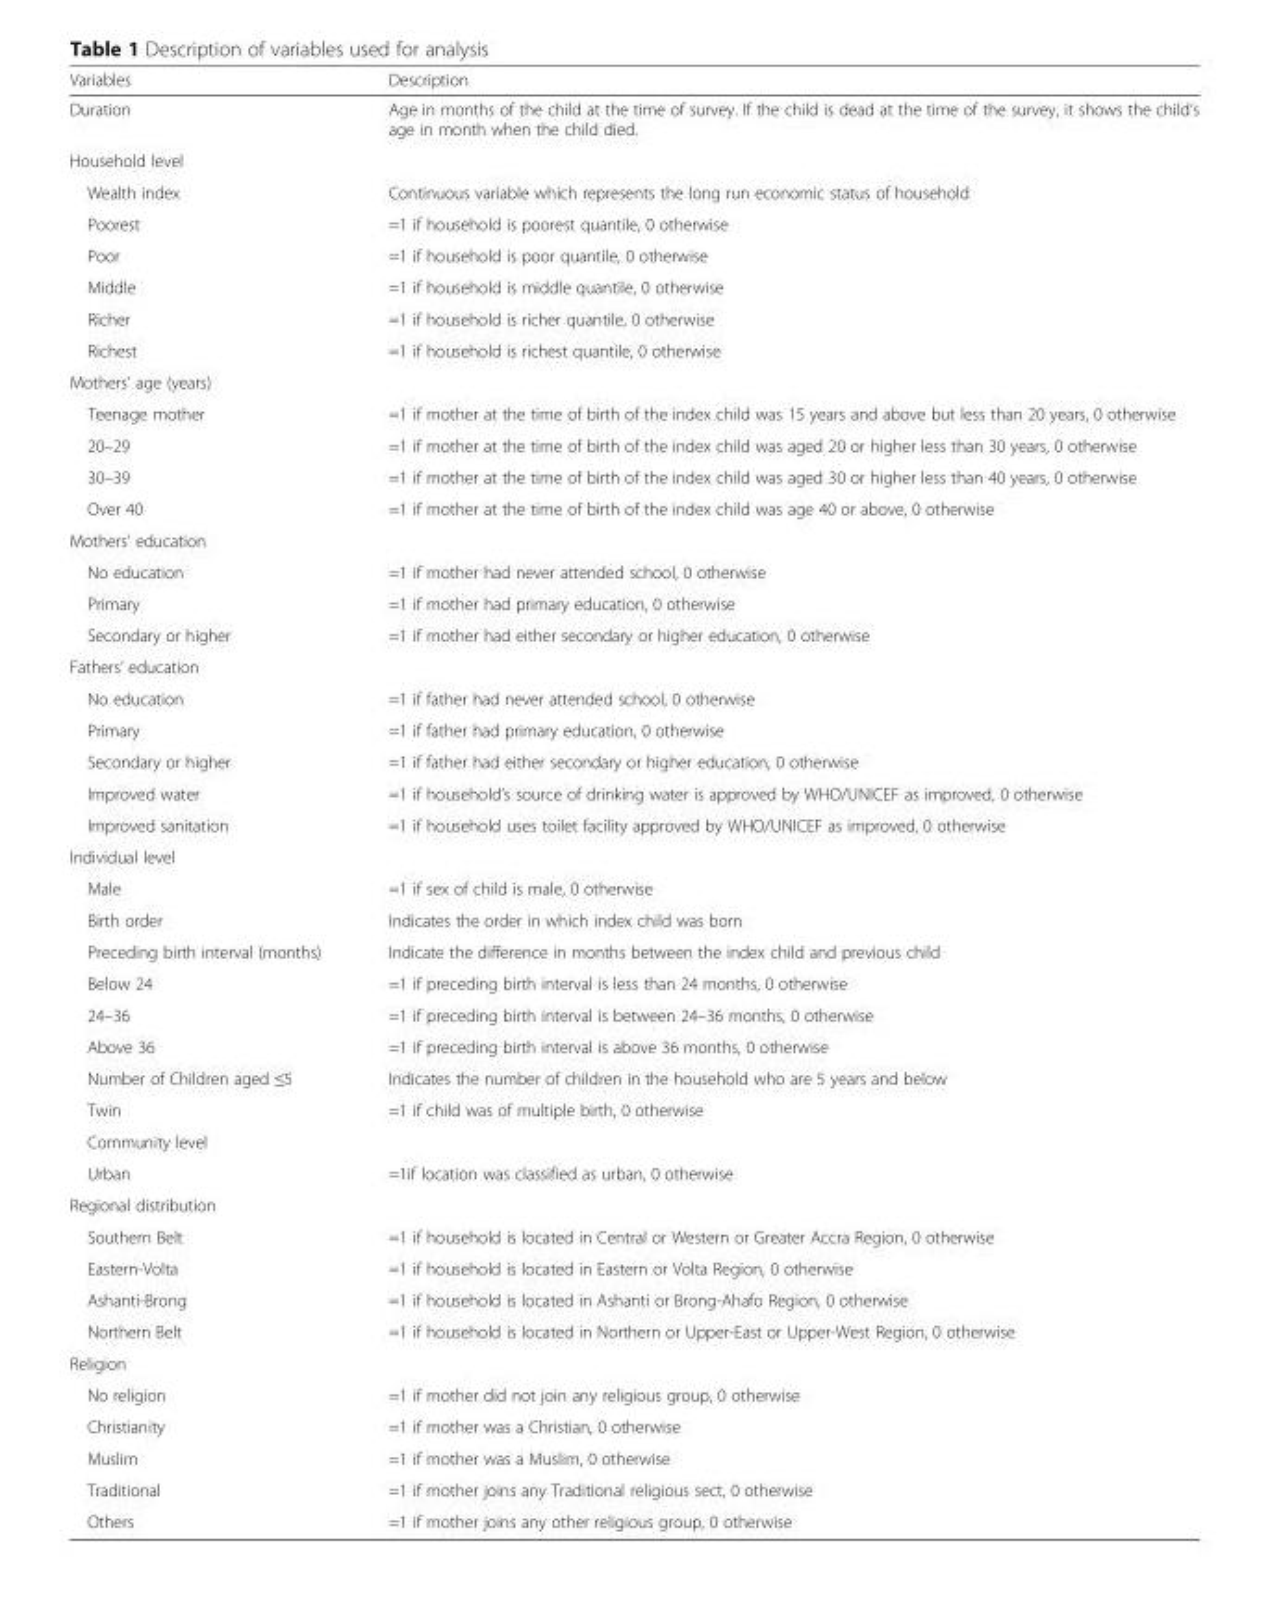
<table><thead><tr><td>Variables</td><td>Description</td></tr></thead><tbody><tr><td>Duration</td><td>Age in months of the child at the time of survey. If the child is dead at the time of the survey, it shows the child’s age in month when the child died.</td></tr><tr><td colspan="2">Household level</td></tr><tr><td>Wealth index</td><td>Continuous variable which represents the long run economic status of household</td></tr><tr><td>Poorest</td><td>=1 if household is poorest quantile, 0 otherwise</td></tr><tr><td>Poor</td><td>=1 if household is poor quantile, 0 otherwise</td></tr><tr><td>Middle</td><td>=1 if household is middle quantile, 0 otherwise</td></tr><tr><td>Richer</td><td>=1 if household is richer quantile, 0 otherwise</td></tr><tr><td>Richest</td><td>=1 if household is richest quantile, 0 otherwise</td></tr><tr><td colspan="2">Mothers’ age (years)</td></tr><tr><td>Teenage mother</td><td>=1 if mother at the time of birth of the index child was 15 years and above but less than 20 years, 0 otherwise</td></tr><tr><td>20–29</td><td>=1 if mother at the time of birth of the index child was aged 20 or higher less than 30 years, 0 otherwise</td></tr><tr><td>30–39</td><td>=1 if mother at the time of birth of the index child was aged 30 or higher less than 40 years, 0 otherwise</td></tr><tr><td>Over 40</td><td>=1 if mother at the time of birth of the index child was age 40 or above, 0 otherwise</td></tr><tr><td colspan="2">Mothers’ education</td></tr><tr><td>No education</td><td>=1 if mother had never attended school, 0 otherwise</td></tr><tr><td>Primary</td><td>=1 if mother had primary education, 0 otherwise</td></tr><tr><td>Secondary or higher</td><td>=1 if mother had either secondary or higher education, 0 otherwise</td></tr><tr><td colspan="2">Fathers’ education</td></tr><tr><td>No education</td><td>=1 if father had never attended school, 0 otherwise</td></tr><tr><td>Primary</td><td>=1 if father had primary education, 0 otherwise</td></tr><tr><td>Secondary or higher</td><td>=1 if father had either secondary or higher education, 0 otherwise</td></tr><tr><td>Improved water</td><td>=1 if household’s source of drinking water is approved by WHO/UNICEF as improved, 0 otherwise</td></tr><tr><td>Improved sanitation</td><td>=1 if household uses toilet facility approved by WHO/UNICEF as improved, 0 otherwise</td></tr><tr><td colspan="2">Individual level</td></tr><tr><td>Male</td><td>=1 if sex of child is male, 0 otherwise</td></tr><tr><td>Birth order</td><td>Indicates the order in which index child was born</td></tr><tr><td>Preceding birth interval (months)</td><td>Indicate the difference in months between the index child and previous child</td></tr><tr><td>Below 24</td><td>=1 if preceding birth interval is less than 24 months, 0 otherwise</td></tr><tr><td>24–36</td><td>=1 if preceding birth interval is between 24–36 months, 0 otherwise</td></tr><tr><td>Above 36</td><td>=1 if preceding birth interval is above 36 months, 0 otherwise</td></tr><tr><td>Number of Children aged ≤5</td><td>Indicates the number of children in the household who are 5 years and below</td></tr><tr><td>Twin</td><td>=1 if child was of multiple birth, 0 otherwise</td></tr><tr><td colspan="2">Community level</td></tr><tr><td>Urban</td><td>=1if location was classified as urban, 0 otherwise</td></tr><tr><td colspan="2">Regional distribution</td></tr><tr><td>Southern Belt</td><td>=1 if household is located in Central or Western or Greater Accra Region, 0 otherwise</td></tr><tr><td>Eastern-Volta</td><td>=1 if household is located in Eastern or Volta Region, 0 otherwise</td></tr><tr><td>Ashanti-Brong</td><td>=1 if household is located in Ashanti or Brong-Ahafo Region, 0 otherwise</td></tr><tr><td>Northern Belt</td><td>=1 if household is located in Northern or Upper-East or Upper-West Region, 0 otherwise</td></tr><tr><td colspan="2">Religion</td></tr><tr><td>No religion</td><td>=1 if mother did not join any religious group, 0 otherwise</td></tr><tr><td>Christianity</td><td>=1 if mother was a Christian, 0 otherwise</td></tr><tr><td>Muslim</td><td>=1 if mother was a Muslim, 0 otherwise</td></tr><tr><td>Traditional</td><td>=1 if mother joins any Traditional religious sect, 0 otherwise</td></tr><tr><td>Others</td><td>=1 if mother joins any other religious group, 0 otherwise</td></tr></tbody></table>